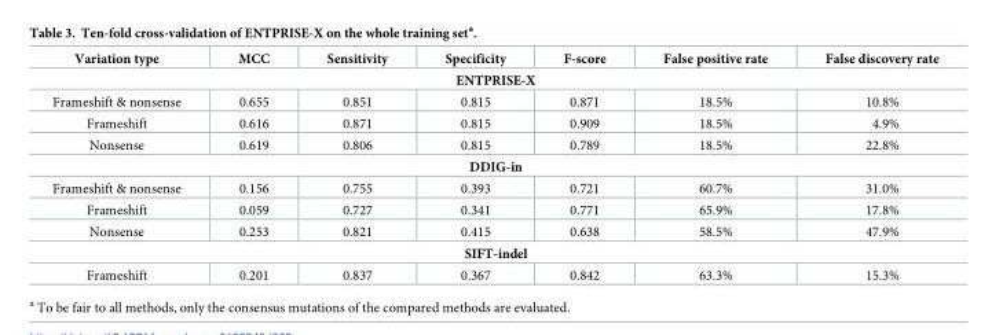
<table><thead><tr><td>Variation type</td><td>MCC</td><td>Sensitivity</td><td>Specificity</td><td>F-score</td><td>False positive rate</td><td>False discovery rate</td></tr></thead><tbody><tr><td colspan="7">ENTPRISE-X</td></tr><tr><td>Frameshift &amp; nonsense</td><td>0.655</td><td>0.851</td><td>0.815</td><td>0.871</td><td>18.5%</td><td>10.8%</td></tr><tr><td>Frameshift</td><td>0.616</td><td>0.871</td><td>0.815</td><td>0.909</td><td>18.5%</td><td>4.9%</td></tr><tr><td>Nonsense</td><td>0.619</td><td>0.806</td><td>0.815</td><td>0.789</td><td>18.5%</td><td>22.8%</td></tr><tr><td colspan="7">DDIG-in</td></tr><tr><td>Frameshift &amp; nonsense</td><td>0.156</td><td>0.755</td><td>0.393</td><td>0.721</td><td>60.7%</td><td>31.0%</td></tr><tr><td>Frameshift</td><td>0.059</td><td>0.727</td><td>0.341</td><td>0.771</td><td>65.9%</td><td>17.8%</td></tr><tr><td>Nonsense</td><td>0.253</td><td>0.821</td><td>0.415</td><td>0.638</td><td>58.5%</td><td>47.9%</td></tr><tr><td colspan="7">SIFT-indel</td></tr><tr><td>Frameshift</td><td>0.201</td><td>0.837</td><td>0.367</td><td>0.842</td><td>63.3%</td><td>15.3%</td></tr></tbody></table>